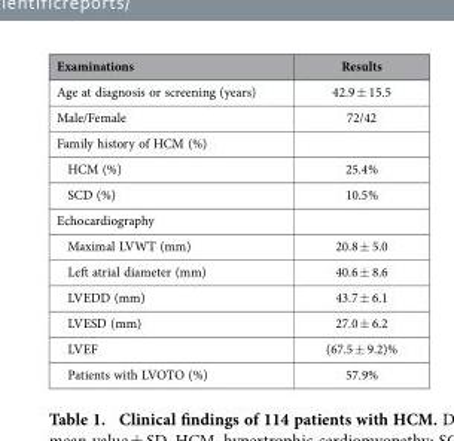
<table><thead><tr><td>Examinations</td><td>Results</td></tr></thead><tbody><tr><td>Age at diagnosis or screening (years)</td><td>42.9 ± 15.5</td></tr><tr><td>Male/Female</td><td>72/42</td></tr><tr><td colspan="2">Family history of HCM (%)</td></tr><tr><td>HCM (%)</td><td>25.4%</td></tr><tr><td>SCD (%)</td><td>10.5%</td></tr><tr><td colspan="2">Echocardiography</td></tr><tr><td>Maximal LVWT (mm)</td><td>20.8 ± 5.0</td></tr><tr><td>Left atrial diameter (mm)</td><td>40.6 ± 8.6</td></tr><tr><td>LVEDD (mm)</td><td>43.7 ± 6.1</td></tr><tr><td>LVESD (mm)</td><td>27.0 ± 6.2</td></tr><tr><td>LVEF</td><td>(67.5 ± 9.2)%</td></tr><tr><td>Patients with LVOTO (%)</td><td>57.9%</td></tr></tbody></table>